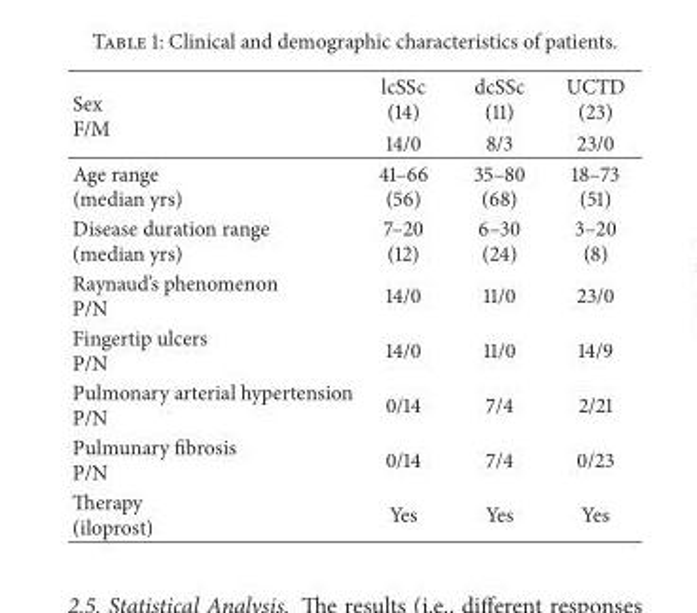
<table><thead><tr><td rowspan="2">Sex F/M</td><td rowspan="2">lcSSc (14) 14/0</td><td rowspan="2">dcSSc (11) 8/3</td><td rowspan="2">UCTD (23) 23/0</td></tr><tr></tr></thead><tbody><tr><td>Age range (median yrs)</td><td>41–66 (56)</td><td>35–80 (68)</td><td>18–73 (51)</td></tr><tr><td>Disease duration range (median yrs)</td><td>7–20 (12)</td><td>6–30 (24)</td><td>3–20 (8)</td></tr><tr><td>Raynaud’s phenomenon P/N</td><td>14/0</td><td>11/0</td><td>23/0</td></tr><tr><td>Fingertip ulcers P/N</td><td>14/0</td><td>11/0</td><td>14/9</td></tr><tr><td>Pulmonary arterial hypertension P/N</td><td>0/14</td><td>7/4</td><td>2/21</td></tr><tr><td>Pulmunary fibrosis P/N</td><td>0/14</td><td>7/4</td><td>0/23</td></tr><tr><td>Therapy (iloprost)</td><td>Yes</td><td>Yes</td><td>Yes</td></tr></tbody></table>